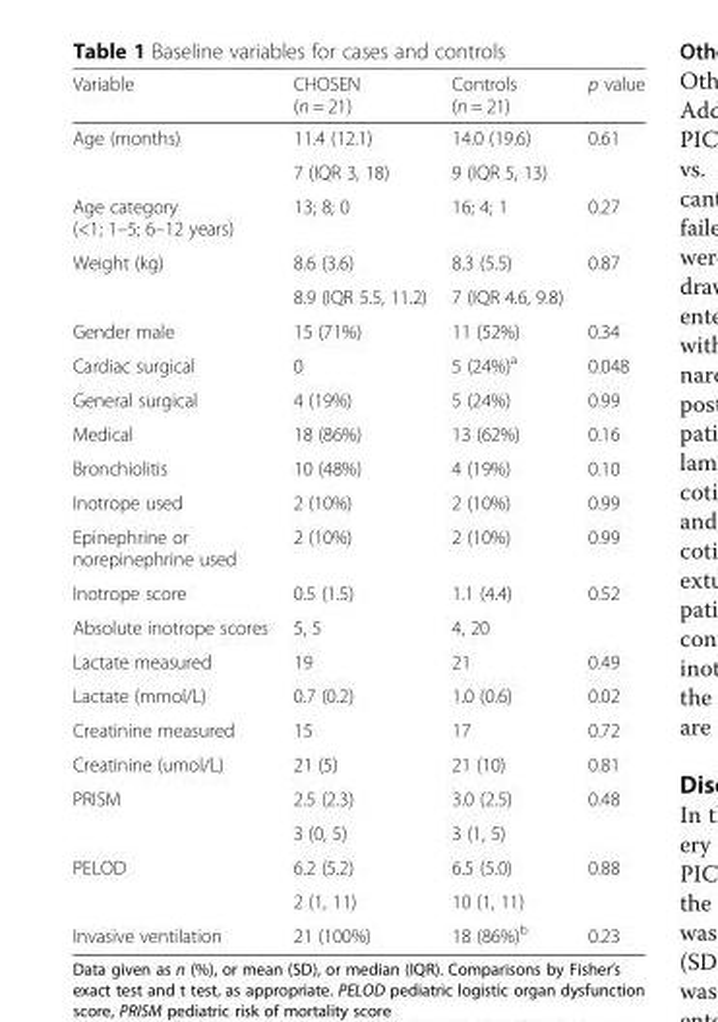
<table><thead><tr><td>Variable</td><td>CHOSEN (n = 21)</td><td>Controls (n = 21)</td><td>p value</td></tr></thead><tbody><tr><td rowspan="2">Age (months)</td><td>11.4 (12.1)</td><td>14.0 (19.6)</td><td rowspan="2">0.61</td></tr><tr><td>7 (IQR 3, 18)</td><td>9 (IQR 5, 13)</td></tr><tr><td>Age category (&lt;1; 1–5; 6–12 years)</td><td>13; 8; 0</td><td>16; 4; 1</td><td>0.27</td></tr><tr><td rowspan="2">Weight (kg)</td><td>8.6 (3.6)</td><td>8.3 (5.5)</td><td rowspan="2">0.87</td></tr><tr><td>8.9 (IQR 5.5, 11.2)</td><td>7 (IQR 4.6, 9.8)</td></tr><tr><td>Gender male</td><td>15 (71%)</td><td>11 (52%)</td><td>0.34</td></tr><tr><td>Cardiac surgical</td><td>0</td><td>5 (24%)<sup>a</sup></td><td>0.048</td></tr><tr><td>General surgical</td><td>4 (19%)</td><td>5 (24%)</td><td>0.99</td></tr><tr><td>Medical</td><td>18 (86%)</td><td>13 (62%)</td><td>0.16</td></tr><tr><td>Bronchiolitis</td><td>10 (48%)</td><td>4 (19%)</td><td>0.10</td></tr><tr><td>Inotrope used</td><td>2 (10%)</td><td>2 (10%)</td><td>0.99</td></tr><tr><td>Epinephrine or norepinephrine used</td><td>2 (10%)</td><td>2 (10%)</td><td>0.99</td></tr><tr><td>Inotrope score</td><td>0.5 (1.5)</td><td>1.1 (4.4)</td><td rowspan="2">0.52</td></tr><tr><td>Absolute inotrope scores</td><td>5, 5</td><td>4, 20</td></tr><tr><td>Lactate measured</td><td>19</td><td>21</td><td>0.49</td></tr><tr><td>Lactate (mmol/L)</td><td>0.7 (0.2)</td><td>1.0 (0.6)</td><td>0.02</td></tr><tr><td>Creatinine measured</td><td>15</td><td>17</td><td>0.72</td></tr><tr><td>Creatinine (umol/L)</td><td>21 (5)</td><td>21 (10)</td><td>0.81</td></tr><tr><td rowspan="2">PRISM</td><td>2.5 (2.3)</td><td>3.0 (2.5)</td><td rowspan="2">0.48</td></tr><tr><td>3 (0, 5)</td><td>3 (1, 5)</td></tr><tr><td rowspan="2">PELOD</td><td>6.2 (5.2)</td><td>6.5 (5.0)</td><td rowspan="2">0.88</td></tr><tr><td>2 (1, 11)</td><td>10 (1, 11)</td></tr><tr><td>Invasive ventilation</td><td>21 (100%)</td><td>18 (86%)<sup>b</sup></td><td>0.23</td></tr></tbody></table>